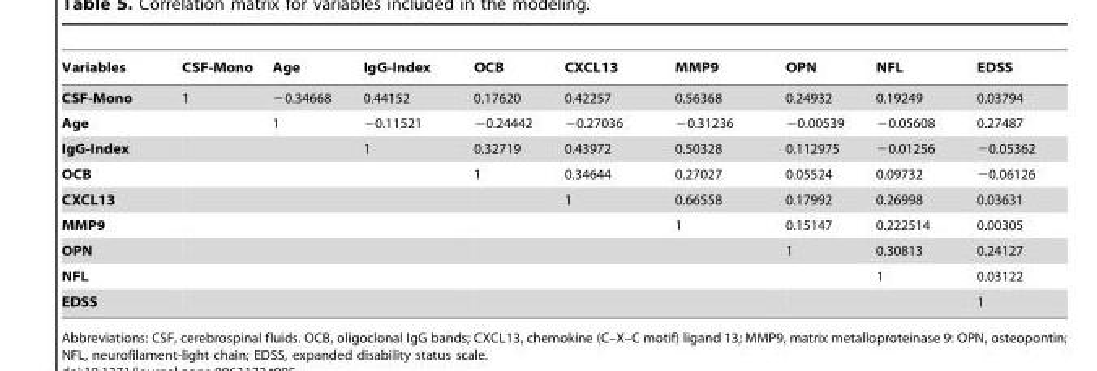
<table><thead><tr><td>Variables</td><td>CSF-Mono</td><td>Age</td><td>IgG-Index</td><td>OCB</td><td>CXCL13</td><td>MMP9</td><td>OPN</td><td>NFL</td><td>EDSS</td></tr></thead><tbody><tr><td>CSF-Mono</td><td>1</td><td>−0.34668</td><td>0.44152</td><td>0.17620</td><td>0.42257</td><td>0.56368</td><td>0.24932</td><td>0.19249</td><td>0.03794</td></tr><tr><td>Age</td><td></td><td>1</td><td>−0.11521</td><td>−0.24442</td><td>−0.27036</td><td>−0.31236</td><td>−0.00539</td><td>−0.05608</td><td>0.27487</td></tr><tr><td>IgG-Index</td><td></td><td></td><td>1</td><td>0.32719</td><td>0.43972</td><td>0.50328</td><td>0.112975</td><td>−0.01256</td><td>−0.05362</td></tr><tr><td>OCB</td><td></td><td></td><td></td><td>1</td><td>0.34644</td><td>0.27027</td><td>0.05524</td><td>0.09732</td><td>−0.06126</td></tr><tr><td>CXCL13</td><td></td><td></td><td></td><td></td><td>1</td><td>0.66558</td><td>0.17992</td><td>0.26998</td><td>0.03631</td></tr><tr><td>MMP9</td><td></td><td></td><td></td><td></td><td></td><td>1</td><td>0.15147</td><td>0.222514</td><td>0.00305</td></tr><tr><td>OPN</td><td></td><td></td><td></td><td></td><td></td><td></td><td>1</td><td>0.30813</td><td>0.24127</td></tr><tr><td>NFL</td><td></td><td></td><td></td><td></td><td></td><td></td><td></td><td>1</td><td>0.03122</td></tr><tr><td>EDSS</td><td></td><td></td><td></td><td></td><td></td><td></td><td></td><td></td><td>1</td></tr></tbody></table>